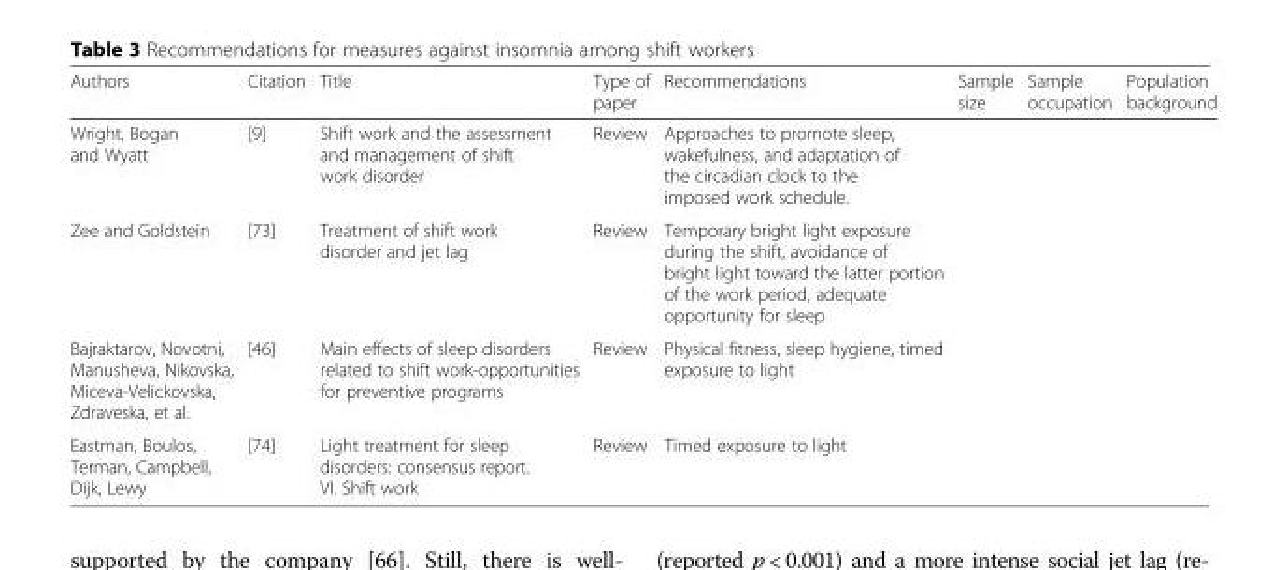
<table><thead><tr><td>Authors</td><td>Citation</td><td>Title</td><td>Type of paper</td><td>Recommendations</td><td>Sample size</td><td>Sample occupation</td><td>Population background</td></tr></thead><tbody><tr><td>Wright, Bogan and Wyatt</td><td>[9]</td><td>Shift work and the assessment and management of shift work disorder</td><td>Review</td><td>Approaches to promote sleep, wakefulness, and adaptation of the circadian clock to the imposed work schedule.</td><td></td><td></td><td></td></tr><tr><td>Zee and Goldstein</td><td>[73]</td><td>Treatment of shift work disorder and jet lag</td><td>Review</td><td>Temporary bright light exposure during the shift, avoidance of bright light toward the latter portion of the work period, adequate opportunity for sleep</td><td></td><td></td><td></td></tr><tr><td>Bajraktarov, Novotni, Manusheva, Nikovska, Miceva-Velickovska, Zdraveska, et al.</td><td>[46]</td><td>Main effects of sleep disorders related to shift work-opportunities for preventive programs</td><td>Review</td><td>Physical fitness, sleep hygiene, timed exposure to light</td><td></td><td></td><td></td></tr><tr><td>Eastman, Boulos, Terman, Campbell, Dijk, Lewy</td><td>[74]</td><td>Light treatment for sleep disorders: consensus report. VI. Shift work</td><td>Review</td><td>Timed exposure to light</td><td></td><td></td><td></td></tr></tbody></table>